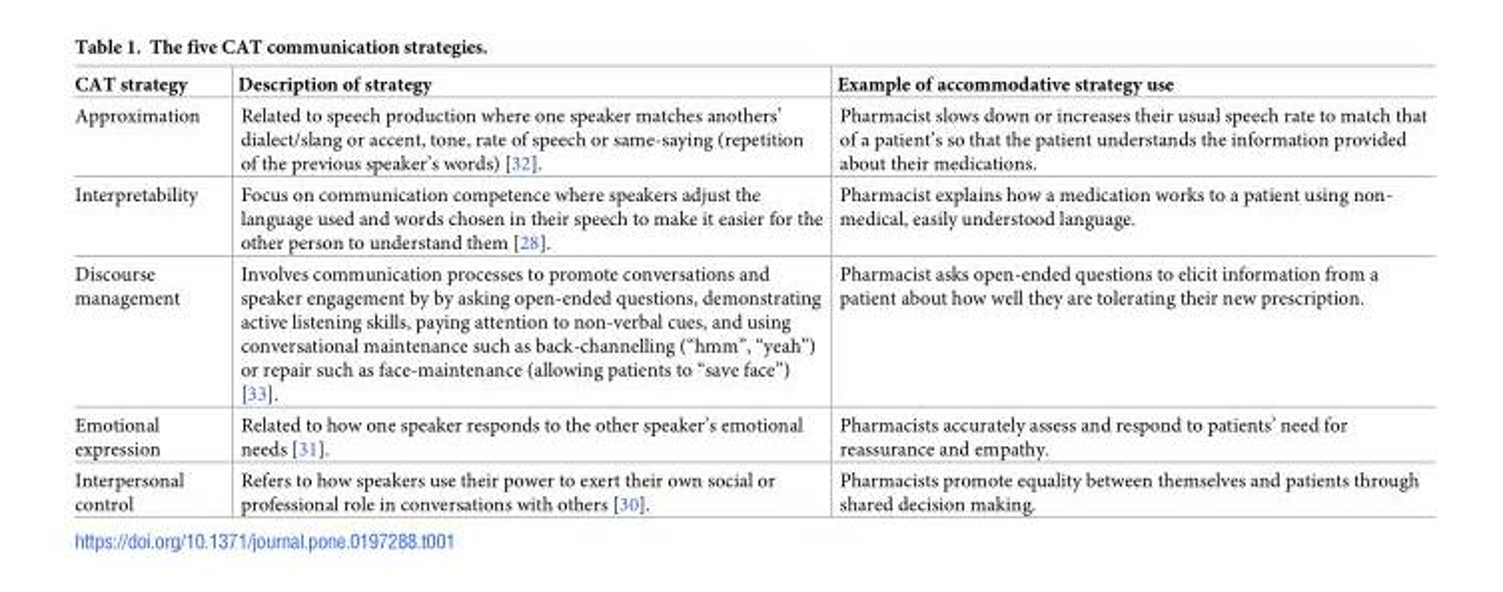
<table><thead><tr><td>CAT strategy</td><td>Description of strategy</td><td>Example of accommodative strategy use</td></tr></thead><tbody><tr><td>Approximation</td><td>Related to speech production where one speaker matches anothers’ dialect/slang or accent, tone, rate of speech or same-saying (repetition of the previous speaker’s words) [32].</td><td>Pharmacist slows down or increases their usual speech rate to match that of a patient’s so that the patient understands the information provided about their medications.</td></tr><tr><td>Interpretability</td><td>Focus on communication competence where speakers adjust the language used and words chosen in their speech to make it easier for the other person to understand them [28].</td><td>Pharmacist explains how a medication works to a patient using non- medical, easily understood language.</td></tr><tr><td>Discourse management</td><td>Involves communication processes to promote conversations and speaker engagement by by asking open-ended questions, demonstrating active listening skills, paying attention to non-verbal cues, and using conversational maintenance such as back-channelling (“hmm”, “yeah”) or repair such as face-maintenance (allowing patients to “save face”) [33].</td><td>Pharmacist asks open-ended questions to elicit information from a patient about how well they are tolerating their new prescription.</td></tr><tr><td>Emotional expression</td><td>Related to how one speaker responds to the other speaker’s emotional needs [31].</td><td>Pharmacists accurately assess and respond to patients’ need for reassurance and empathy.</td></tr><tr><td>Interpersonal control</td><td>Refers to how speakers use their power to exert their own social or professional role in conversations with others [30].</td><td>Pharmacists promote equality between themselves and patients through shared decision making.</td></tr></tbody></table>